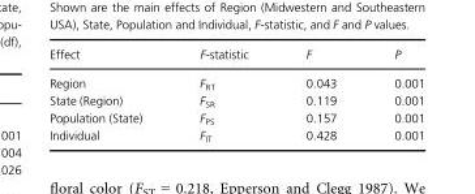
<table><thead><tr><td>Effect</td><td>F-statistic</td><td>F</td><td>P</td></tr></thead><tbody><tr><td>Region</td><td>F<sub>RT</sub></td><td>0.043</td><td>0.001</td></tr><tr><td>State (Region)</td><td>F<sub>SR</sub></td><td>0.119</td><td>0.001</td></tr><tr><td>Population (State)</td><td>F<sub>PS</sub></td><td>0.157</td><td>0.001</td></tr><tr><td>Individual</td><td>F<sub>IT</sub></td><td>0.428</td><td>0.001</td></tr></tbody></table>